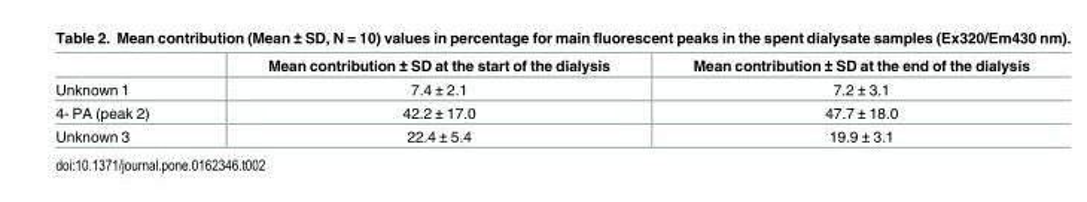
<table><thead><tr><td></td><td>Mean contribution ± SD at the start of the dialysis</td><td>Mean contribution ± SD at the end of the dialysis</td></tr></thead><tbody><tr><td>Unknown 1</td><td>7.4 ± 2.1</td><td>7.2 ± 3.1</td></tr><tr><td>4- PA (peak 2)</td><td>42.2 ± 17.0</td><td>47.7 ± 18.0</td></tr><tr><td>Unknown 3</td><td>22.4 ± 5.4</td><td>19.9 ± 3.1</td></tr></tbody></table>